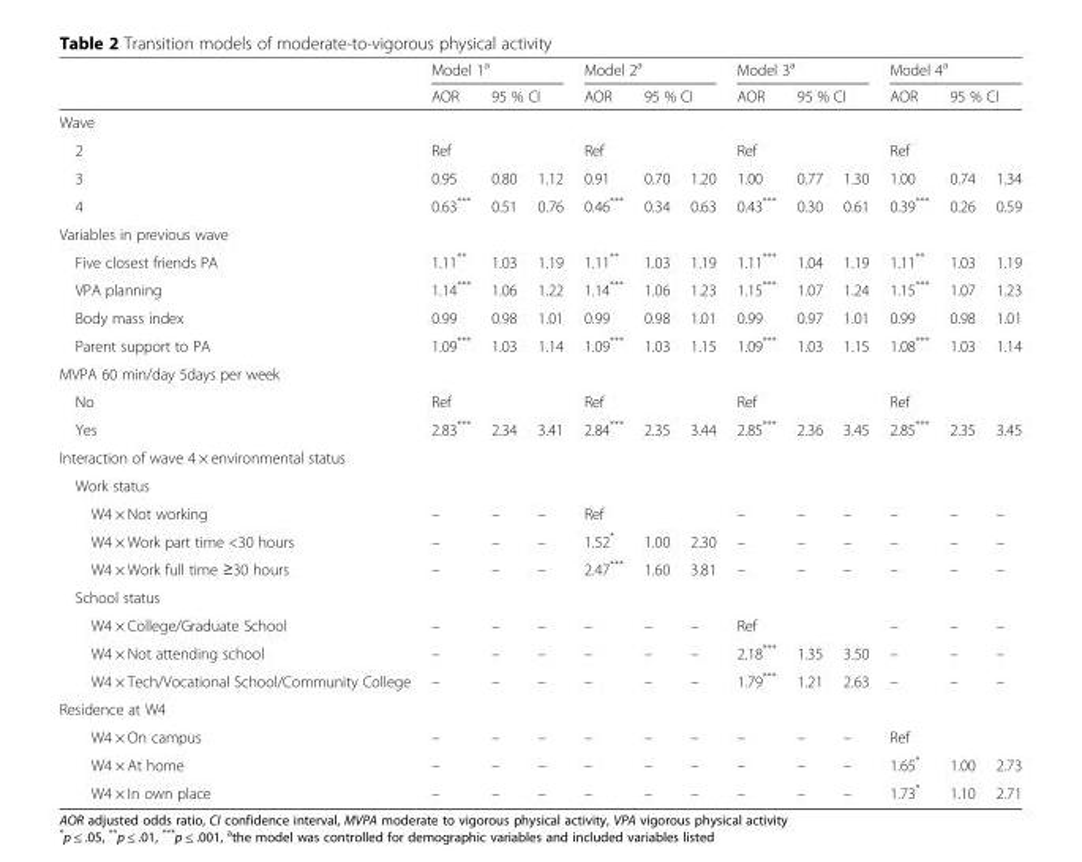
<table><thead><tr><td rowspan="2"></td><td colspan="3">Model 1<sup>a</sup></td><td colspan="3">Model 2<sup>a</sup></td><td colspan="3">Model 3<sup>a</sup></td><td colspan="3">Model 4<sup>a</sup></td></tr><tr><td>AOR</td><td colspan="2">95 % CI</td><td>AOR</td><td colspan="2">95 % CI</td><td>AOR</td><td colspan="2">95 % CI</td><td>AOR</td><td colspan="2">95 % CI</td></tr><tr><td colspan="13">Wave</td></tr><tr><td>2</td><td>Ref</td><td></td><td></td><td>Ref</td><td></td><td></td><td>Ref</td><td></td><td></td><td>Ref</td><td></td><td></td></tr></thead><tbody><tr><td>3</td><td>0.95</td><td>0.80</td><td>1.12</td><td>0.91</td><td>0.70</td><td>1.20</td><td>1.00</td><td>0.77</td><td>1.30</td><td>1.00</td><td>0.74</td><td>1.34</td></tr><tr><td>4</td><td>0.63***</td><td>0.51</td><td>0.76</td><td>0.46***</td><td>0.34</td><td>0.63</td><td>0.43***</td><td>0.30</td><td>0.61</td><td>0.39***</td><td>0.26</td><td>0.59</td></tr><tr><td colspan="13">Variables in previous wave</td></tr><tr><td>Five closest friends PA</td><td>1.11**</td><td>1.03</td><td>1.19</td><td>1.11**</td><td>1.03</td><td>1.19</td><td>1.11***</td><td>1.04</td><td>1.19</td><td>1.11**</td><td>1.03</td><td>1.19</td></tr><tr><td>VPA planning</td><td>1.14***</td><td>1.06</td><td>1.22</td><td>1.14***</td><td>1.06</td><td>1.23</td><td>1.15***</td><td>1.07</td><td>1.24</td><td>1.15***</td><td>1.07</td><td>1.23</td></tr><tr><td>Body mass index</td><td>0.99</td><td>0.98</td><td>1.01</td><td>0.99</td><td>0.98</td><td>1.01</td><td>0.99</td><td>0.97</td><td>1.01</td><td>0.99</td><td>0.98</td><td>1.01</td></tr><tr><td>Parent support to PA</td><td>1.09***</td><td>1.03</td><td>1.14</td><td>1.09***</td><td>1.03</td><td>1.15</td><td>1.09***</td><td>1.03</td><td>1.15</td><td>1.08***</td><td>1.03</td><td>1.14</td></tr><tr><td colspan="13">MVPA 60 min/day 5days per week</td></tr><tr><td>No</td><td>Ref</td><td></td><td></td><td>Ref</td><td></td><td></td><td>Ref</td><td></td><td></td><td>Ref</td><td></td><td></td></tr><tr><td>Yes</td><td>2.83***</td><td>2.34</td><td>3.41</td><td>2.84***</td><td>2.35</td><td>3.44</td><td>2.85***</td><td>2.36</td><td>3.45</td><td>2.85***</td><td>2.35</td><td>3.45</td></tr><tr><td colspan="13">Interaction of wave 4 × environmental status</td></tr><tr><td colspan="13">Work status</td></tr><tr><td>W4 × Not working</td><td>–</td><td>–</td><td>–</td><td>Ref</td><td></td><td></td><td>–</td><td>–</td><td>–</td><td>–</td><td>–</td><td>–</td></tr><tr><td>W4 × Work part time &lt;30 hours</td><td>–</td><td>–</td><td>–</td><td>1.52*</td><td>1.00</td><td>2.30</td><td>–</td><td>–</td><td>–</td><td>–</td><td>–</td><td>–</td></tr><tr><td>W4 × Work full time ≥30 hours</td><td>–</td><td>–</td><td>–</td><td>2.47***</td><td>1.60</td><td>3.81</td><td>–</td><td>–</td><td>–</td><td>–</td><td>–</td><td>–</td></tr><tr><td colspan="13">School status</td></tr><tr><td>W4 × College/Graduate School</td><td>–</td><td>–</td><td>–</td><td>–</td><td>–</td><td>–</td><td>Ref</td><td></td><td></td><td>–</td><td>–</td><td>–</td></tr><tr><td>W4 × Not attending school</td><td>–</td><td>–</td><td>–</td><td>–</td><td>–</td><td>–</td><td>2.18***</td><td>1.35</td><td>3.50</td><td>–</td><td>–</td><td>–</td></tr><tr><td>W4 × Tech/Vocational School/Community College</td><td>–</td><td>–</td><td>–</td><td>–</td><td>–</td><td>–</td><td>1.79***</td><td>1.21</td><td>2.63</td><td>–</td><td>–</td><td>–</td></tr><tr><td colspan="13">Residence at W4</td></tr><tr><td>W4 × On campus</td><td>–</td><td>–</td><td>–</td><td>–</td><td>–</td><td>–</td><td>–</td><td>–</td><td>–</td><td>Ref</td><td></td><td></td></tr><tr><td>W4 × At home</td><td>–</td><td>–</td><td>–</td><td>–</td><td>–</td><td>–</td><td>–</td><td>–</td><td>–</td><td>1.65*</td><td>1.00</td><td>2.73</td></tr><tr><td>W4 × In own place</td><td>–</td><td>–</td><td>–</td><td>–</td><td>–</td><td>–</td><td>–</td><td>–</td><td>–</td><td>1.73*</td><td>1.10</td><td>2.71</td></tr></tbody></table>